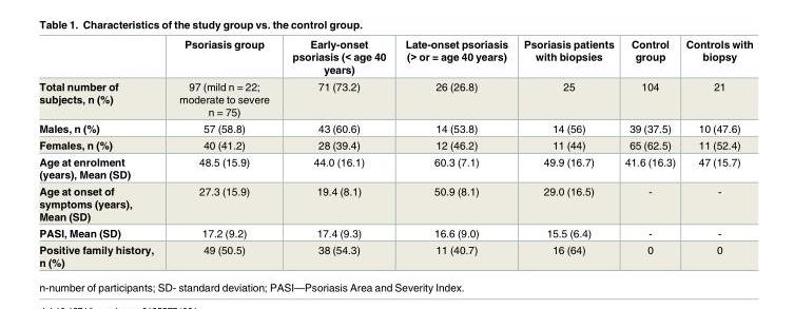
<table><thead><tr><td></td><td>Psoriasis group</td><td>Early-onset psoriasis (&lt; age 40 years)</td><td>Late-onset psoriasis (&gt; or = age 40 years)</td><td>Psoriasis patients with biopsies</td><td>Control group</td><td>Controls with biopsy</td></tr></thead><tbody><tr><td>Total number of subjects, n (%)</td><td>97 (mild n = 22; moderate to severe n = 75)</td><td>71 (73.2)</td><td>26 (26.8)</td><td>25</td><td>104</td><td>21</td></tr><tr><td>Males, n (%)</td><td>57 (58.8)</td><td>43 (60.6)</td><td>14 (53.8)</td><td>14 (56)</td><td>39 (37.5)</td><td>10 (47.6)</td></tr><tr><td>Females, n (%)</td><td>40 (41.2)</td><td>28 (39.4)</td><td>12 (46.2)</td><td>11 (44)</td><td>65 (62.5)</td><td>11 (52.4)</td></tr><tr><td>Age at enrolment (years), Mean (SD)</td><td>48.5 (15.9)</td><td>44.0 (16.1)</td><td>60.3 (7.1)</td><td>49.9 (16.7)</td><td>41.6 (16.3)</td><td>47 (15.7)</td></tr><tr><td>Age at onset of symptoms (years), Mean (SD)</td><td>27.3 (15.9)</td><td>19.4 (8.1)</td><td>50.9 (8.1)</td><td>29.0 (16.5)</td><td>-</td><td>-</td></tr><tr><td>PASI, Mean (SD)</td><td>17.2 (9.2)</td><td>17.4 (9.3)</td><td>16.6 (9.0)</td><td>15.5 (6.4)</td><td>-</td><td>-</td></tr><tr><td>Positive family history, n (%)</td><td>49 (50.5)</td><td>38 (54.3)</td><td>11 (40.7)</td><td>16 (64)</td><td>0</td><td>0</td></tr></tbody></table>